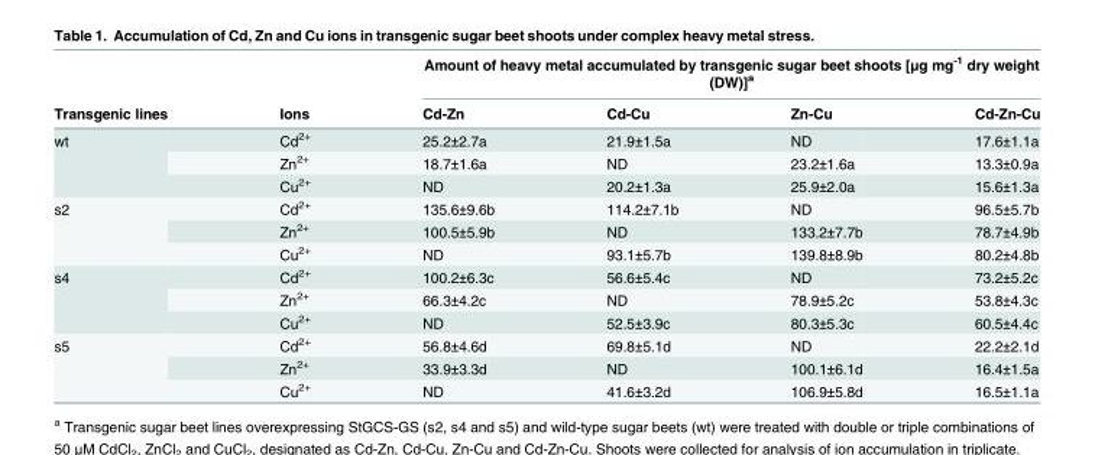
<table><thead><tr><td rowspan="2">Transgenic lines</td><td rowspan="2">Ions</td><td colspan="4">Amount of heavy metal accumulated by transgenic sugar beet shoots [μg mg<sup>-1</sup> dry weight (DW)]<sup>a</sup></td></tr><tr><td>Cd-Zn</td><td>Cd-Cu</td><td>Zn-Cu</td><td>Cd-Zn-Cu</td></tr></thead><tbody><tr><td rowspan="3">wt</td><td>Cd<sup>2+</sup></td><td>25.2±2.7a</td><td>21.9±1.5a</td><td>ND</td><td>17.6±1.1a</td></tr><tr><td>Zn<sup>2+</sup></td><td>18.7±1.6a</td><td>ND</td><td>23.2±1.6a</td><td>13.3±0.9a</td></tr><tr><td>Cu<sup>2+</sup></td><td>ND</td><td>20.2±1.3a</td><td>25.9±2.0a</td><td>15.6±1.3a</td></tr><tr><td rowspan="3">s2</td><td>Cd<sup>2+</sup></td><td>135.6±9.6b</td><td>114.2±7.1b</td><td>ND</td><td>96.5±5.7b</td></tr><tr><td>Zn<sup>2+</sup></td><td>100.5±5.9b</td><td>ND</td><td>133.2±7.7b</td><td>78.7±4.9b</td></tr><tr><td>Cu<sup>2+</sup></td><td>ND</td><td>93.1±5.7b</td><td>139.8±8.9b</td><td>80.2±4.8b</td></tr><tr><td rowspan="3">s4</td><td>Cd<sup>2+</sup></td><td>100.2±6.3c</td><td>56.6±5.4c</td><td>ND</td><td>73.2±5.2c</td></tr><tr><td>Zn<sup>2+</sup></td><td>66.3±4.2c</td><td>ND</td><td>78.9±5.2c</td><td>53.8±4.3c</td></tr><tr><td>Cu<sup>2+</sup></td><td>ND</td><td>52.5±3.9c</td><td>80.3±5.3c</td><td>60.5±4.4c</td></tr><tr><td rowspan="3">s5</td><td>Cd<sup>2+</sup></td><td>56.8±4.6d</td><td>69.8±5.1d</td><td>ND</td><td>22.2±2.1d</td></tr><tr><td>Zn<sup>2+</sup></td><td>33.9±3.3d</td><td>ND</td><td>100.1±6.1d</td><td>16.4±1.5a</td></tr><tr><td>Cu<sup>2+</sup></td><td>ND</td><td>41.6±3.2d</td><td>106.9±5.8d</td><td>16.5±1.1a</td></tr></tbody></table>